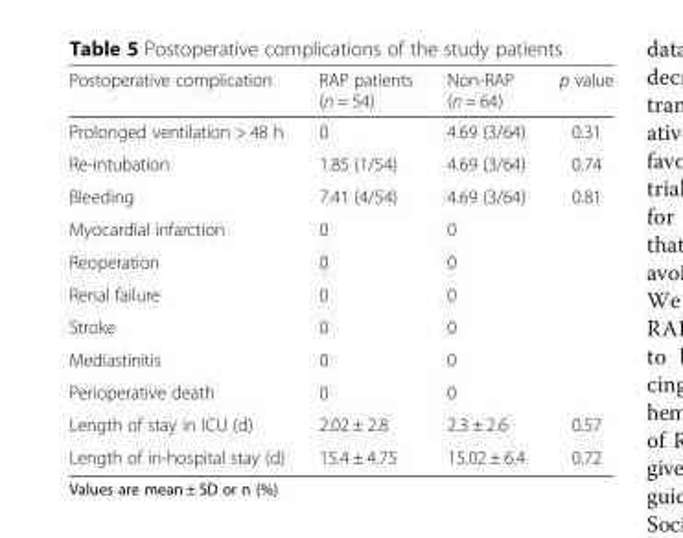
<table><thead><tr><td>Postoperative complication</td><td>RAP patients (n = 54)</td><td>Non-RAP (n = 64)</td><td>p value</td></tr></thead><tbody><tr><td>Prolonged ventilation &gt; 48 h</td><td>0</td><td>4.69 (3/64)</td><td>0.31</td></tr><tr><td>Re-intubation</td><td>1.85 (1/54)</td><td>4.69 (3/64)</td><td>0.74</td></tr><tr><td>Bleeding</td><td>7.41 (4/54)</td><td>4.69 (3/64)</td><td>0.81</td></tr><tr><td>Myocardial infarction</td><td>0</td><td>0</td><td></td></tr><tr><td>Reoperation</td><td>0</td><td>0</td><td></td></tr><tr><td>Renal failure</td><td>0</td><td>0</td><td></td></tr><tr><td>Stroke</td><td>0</td><td>0</td><td></td></tr><tr><td>Mediastinitis</td><td>0</td><td>0</td><td></td></tr><tr><td>Perioperative death</td><td>0</td><td>0</td><td></td></tr><tr><td>Length of stay in ICU (d)</td><td>2.02 ± 2.8</td><td>2.3 ± 2.6</td><td>0.57</td></tr><tr><td>Length of in-hospital stay (d)</td><td>15.4 ± 4.75</td><td>15.02 ± 6.4</td><td>0.72</td></tr></tbody></table>